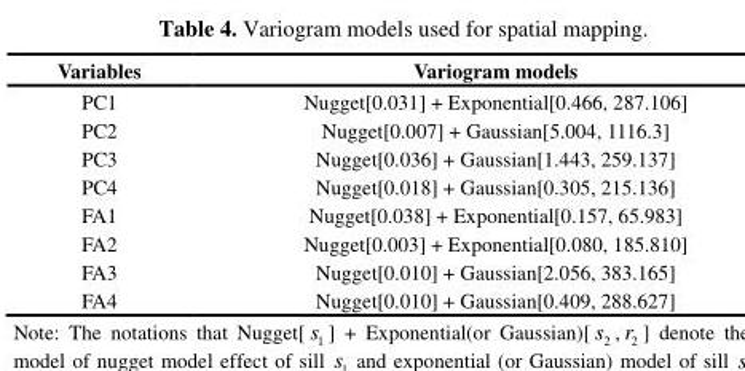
<table><thead><tr><td>Variables</td><td>Variogram models</td></tr></thead><tbody><tr><td>PC1</td><td>Nugget[0.031] + Exponential[0.466, 287.106]</td></tr><tr><td>PC2</td><td>Nugget[0.007] + Gaussian[5.004, 1116.3]</td></tr><tr><td>PC3</td><td>Nugget[0.036] + Gaussian[1.443, 259.137]</td></tr><tr><td>PC4</td><td>Nugget[0.018] + Gaussian[0.305, 215.136]</td></tr><tr><td>FA1</td><td>Nugget[0.038] + Exponential[0.157, 65.983]</td></tr><tr><td>FA2</td><td>Nugget[0.003] + Exponential[0.080, 185.810]</td></tr><tr><td>FA3</td><td>Nugget[0.010] + Gaussian[2.056, 383.165]</td></tr><tr><td>FA4</td><td>Nugget[0.010] + Gaussian[0.409, 288.627]</td></tr></tbody></table>